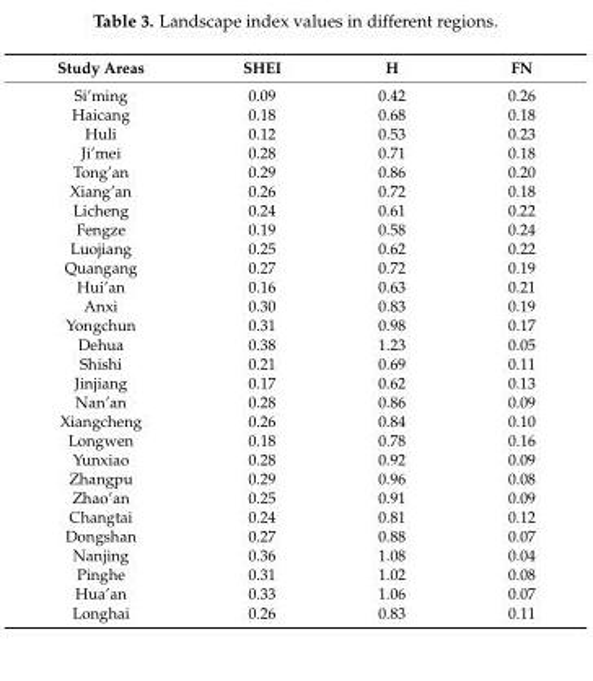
<table><thead><tr><td>Study Areas</td><td>SHEI</td><td>H</td><td>FN</td></tr></thead><tbody><tr><td>Si’ming</td><td>0.09</td><td>0.42</td><td>0.26</td></tr><tr><td>Haicang</td><td>0.18</td><td>0.68</td><td>0.18</td></tr><tr><td>Huli</td><td>0.12</td><td>0.53</td><td>0.23</td></tr><tr><td>Ji’mei</td><td>0.28</td><td>0.71</td><td>0.18</td></tr><tr><td>Tong’an</td><td>0.29</td><td>0.86</td><td>0.20</td></tr><tr><td>Xiang’an</td><td>0.26</td><td>0.72</td><td>0.18</td></tr><tr><td>Licheng</td><td>0.24</td><td>0.61</td><td>0.22</td></tr><tr><td>Fengze</td><td>0.19</td><td>0.58</td><td>0.24</td></tr><tr><td>Luojiang</td><td>0.25</td><td>0.62</td><td>0.22</td></tr><tr><td>Quangang</td><td>0.27</td><td>0.72</td><td>0.19</td></tr><tr><td>Hui’an</td><td>0.16</td><td>0.63</td><td>0.21</td></tr><tr><td>Anxi</td><td>0.30</td><td>0.83</td><td>0.19</td></tr><tr><td>Yongchun</td><td>0.31</td><td>0.98</td><td>0.17</td></tr><tr><td>Dehua</td><td>0.38</td><td>1.23</td><td>0.05</td></tr><tr><td>Shishi</td><td>0.21</td><td>0.69</td><td>0.11</td></tr><tr><td>Jinjiang</td><td>0.17</td><td>0.62</td><td>0.13</td></tr><tr><td>Nan’an</td><td>0.28</td><td>0.86</td><td>0.09</td></tr><tr><td>Xiangcheng</td><td>0.26</td><td>0.84</td><td>0.10</td></tr><tr><td>Longwen</td><td>0.18</td><td>0.78</td><td>0.16</td></tr><tr><td>Yunxiao</td><td>0.28</td><td>0.92</td><td>0.09</td></tr><tr><td>Zhangpu</td><td>0.29</td><td>0.96</td><td>0.08</td></tr><tr><td>Zhao’an</td><td>0.25</td><td>0.91</td><td>0.09</td></tr><tr><td>Changtai</td><td>0.24</td><td>0.81</td><td>0.12</td></tr><tr><td>Dongshan</td><td>0.27</td><td>0.88</td><td>0.07</td></tr><tr><td>Nanjing</td><td>0.36</td><td>1.08</td><td>0.04</td></tr><tr><td>Pinghe</td><td>0.31</td><td>1.02</td><td>0.08</td></tr><tr><td>Hua’an</td><td>0.33</td><td>1.06</td><td>0.07</td></tr><tr><td>Longhai</td><td>0.26</td><td>0.83</td><td>0.11</td></tr></tbody></table>